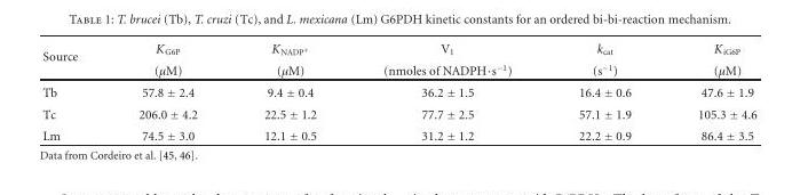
<table><thead><tr><td rowspan="2">Source</td><td rowspan="2">K<sub>G6P</sub> (μM)</td><td rowspan="2">K<sub>NADP</sub><sup>+</sup> (μM)</td><td rowspan="2">V<sub>1</sub> (nmoles of NADPH·s<sup>−1</sup>)</td><td rowspan="2">k<sub>cat</sub> (s<sup>−1</sup>)</td><td rowspan="2">K<sub>iG6P</sub> (μM)</td></tr><tr></tr></thead><tbody><tr><td>Tb</td><td>57.8 ± 2.4</td><td>9.4 ± 0.4</td><td>36.2 ± 1.5</td><td>16.4 ± 0.6</td><td>47.6 ± 1.9</td></tr><tr><td>Tc</td><td>206.0 ± 4.2</td><td>22.5 ± 1.2</td><td>77.7 ± 2.5</td><td>57.1 ± 1.9</td><td>105.3 ± 4.6</td></tr><tr><td>Lm</td><td>74.5 ± 3.0</td><td>12.1 ± 0.5</td><td>31.2 ± 1.2</td><td>22.2 ± 0.9</td><td>86.4 ± 3.5</td></tr></tbody></table>